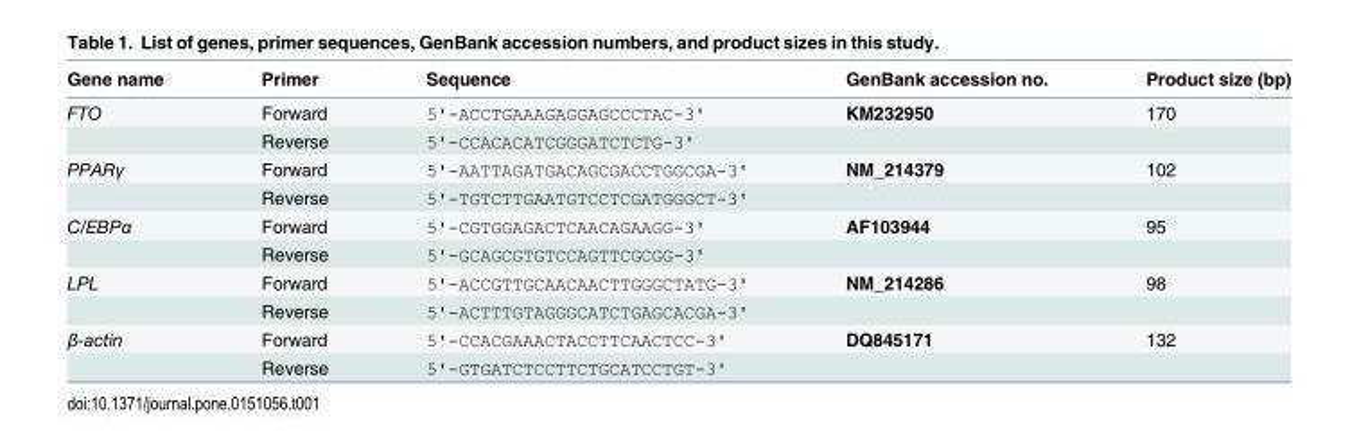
<table><thead><tr><td>Gene name</td><td>Primer</td><td>Sequence</td><td>GenBank accession no.</td><td>Product size (bp)</td></tr></thead><tbody><tr><td rowspan="2">FTO</td><td>Forward</td><td>5&#x27;-ACCTGAAAGAGGAGCCCTAC-3&#x27;</td><td>KM232950</td><td>170</td></tr><tr><td>Reverse</td><td>5&#x27;-CCACACATCGGGATCTCTG-3&#x27;</td><td></td><td></td></tr><tr><td rowspan="2">PPARγ</td><td>Forward</td><td>5&#x27;-AATTAGATGACAGCGACCTGGCGA-3&#x27;</td><td>NM_214379</td><td>102</td></tr><tr><td>Reverse</td><td>5&#x27;-TGTCTTGAATGTCCTCGATGGGCT-3&#x27;</td><td></td><td></td></tr><tr><td rowspan="2">C/EBPα</td><td>Forward</td><td>5&#x27;-CGTGGAGACTCAACAGAAGG-3&#x27;</td><td>AF103944</td><td>95</td></tr><tr><td>Reverse</td><td>5&#x27;-GCAGCGTGTCCAGTTCGCGG-3&#x27;</td><td></td><td></td></tr><tr><td rowspan="2">LPL</td><td>Forward</td><td>5&#x27;-ACCGTTGCAACAACTTGGGCTATG-3&#x27;</td><td>NM_214286</td><td>98</td></tr><tr><td>Reverse</td><td>5&#x27;-ACTTTGTAGGGCATCTGAGCACGA-3&#x27;</td><td></td><td></td></tr><tr><td rowspan="2">β-actin</td><td>Forward</td><td>5&#x27;-CCACGAAACTACCTTCAACTCC-3&#x27;</td><td>DQ845171</td><td>132</td></tr><tr><td>Reverse</td><td>5&#x27;-GTGATCTCCTTCTGCATCCTGT-3&#x27;</td><td></td><td></td></tr></tbody></table>